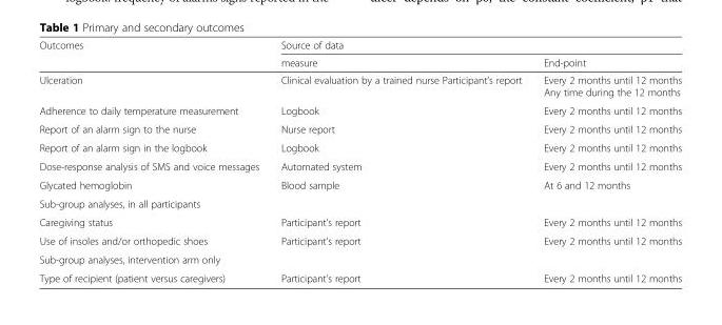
<table><thead><tr><td rowspan="2">Outcomes</td><td colspan="2">Source of data</td></tr><tr><td>measure</td><td>End-point</td></tr></thead><tbody><tr><td>Ulceration</td><td>Clinical evaluation by a trained nurse Participant’s report</td><td>Every 2 months until 12 months Any time during the 12 months</td></tr><tr><td>Adherence to daily temperature measurement</td><td>Logbook</td><td>Every 2 months until 12 months</td></tr><tr><td>Report of an alarm sign to the nurse</td><td>Nurse report</td><td>Every 2 months until 12 months</td></tr><tr><td>Report of an alarm sign in the logbook</td><td>Logbook</td><td>Every 2 months until 12 months</td></tr><tr><td>Dose-response analysis of SMS and voice messages</td><td>Automated system</td><td>Every 2 months until 12 months</td></tr><tr><td>Glycated hemoglobin</td><td>Blood sample</td><td>At 6 and 12 months</td></tr><tr><td colspan="3">Sub-group analyses, in all participants</td></tr><tr><td>Caregiving status</td><td>Participant’s report</td><td>Every 2 months until 12 months</td></tr><tr><td>Use of insoles and/or orthopedic shoes</td><td>Participant’s report</td><td>Every 2 months until 12 months</td></tr><tr><td colspan="3">Sub-group analyses, intervention arm only</td></tr><tr><td>Type of recipient (patient versus caregivers)</td><td>Participant’s report</td><td>Every 2 months until 12 months</td></tr></tbody></table>